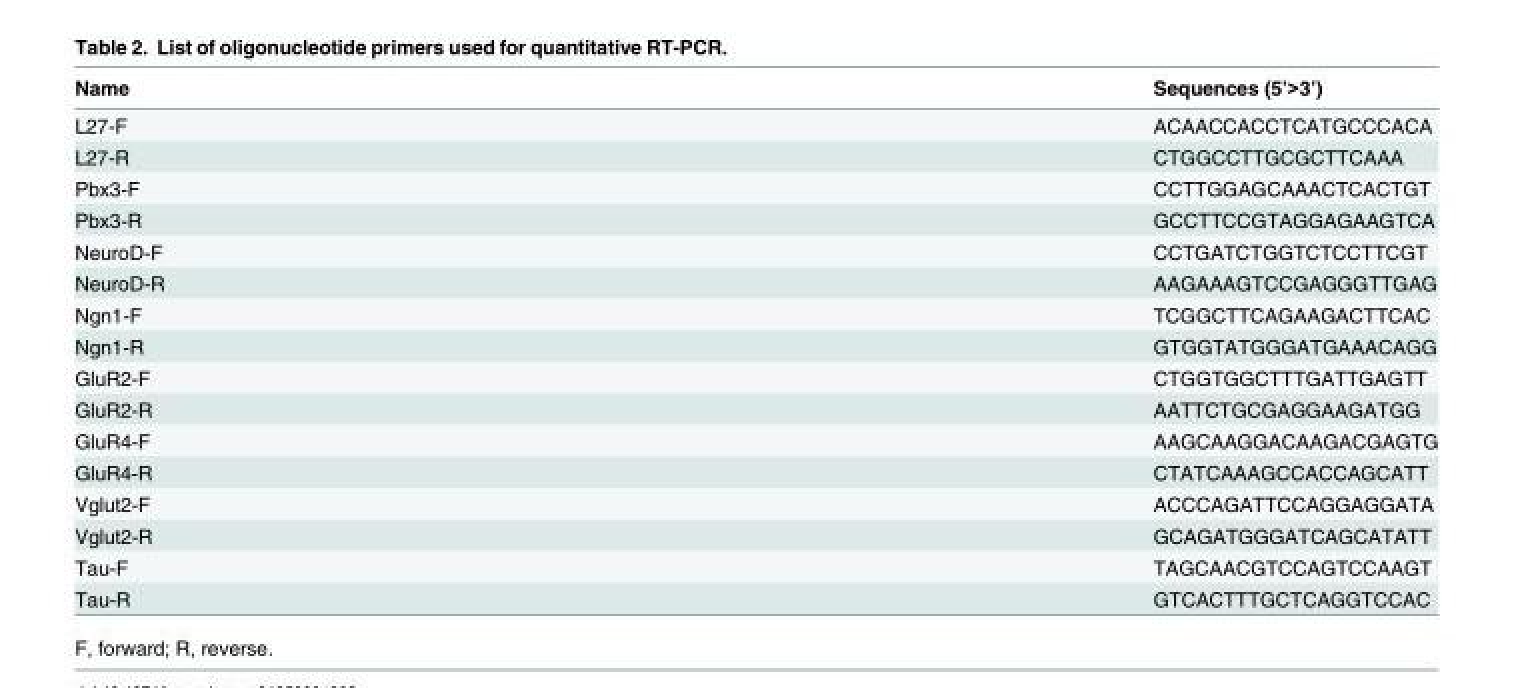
<table><thead><tr><td>Name</td><td>Sequences (5’&gt;3’)</td></tr></thead><tbody><tr><td>L27-F</td><td>ACAACCACCTCATGCCCACA</td></tr><tr><td>L27-R</td><td>CTGGCCTTGCGCTTCAAA</td></tr><tr><td>Pbx3-F</td><td>CCTTGGAGCAAACTCACTGT</td></tr><tr><td>Pbx3-R</td><td>GCCTTCCGTAGGAGAAGTCA</td></tr><tr><td>NeuroD-F</td><td>CCTGATCTGGTCTCCTTCGT</td></tr><tr><td>NeuroD-R</td><td>AAGAAAGTCCGAGGGTTGAG</td></tr><tr><td>Ngn1-F</td><td>TCGGCTTCAGAAGACTTCAC</td></tr><tr><td>Ngn1-R</td><td>GTGGTATGGGATGAAACAGG</td></tr><tr><td>GluR2-F</td><td>CTGGTGGCTTTGATTGAGTT</td></tr><tr><td>GluR2-R</td><td>AATTCTGCGAGGAAGATGG</td></tr><tr><td>GluR4-F</td><td>AAGCAAGGACAAGACGAGTG</td></tr><tr><td>GluR4-R</td><td>CTATCAAAGCCACCAGCATT</td></tr><tr><td>Vglut2-F</td><td>ACCCAGATTCCAGGAGGATA</td></tr><tr><td>Vglut2-R</td><td>GCAGATGGGATCAGCATATT</td></tr><tr><td>Tau-F</td><td>TAGCAACGTCCAGTCCAAGT</td></tr><tr><td>Tau-R</td><td>GTCACTTTGCTCAGGTCCAC</td></tr></tbody></table>